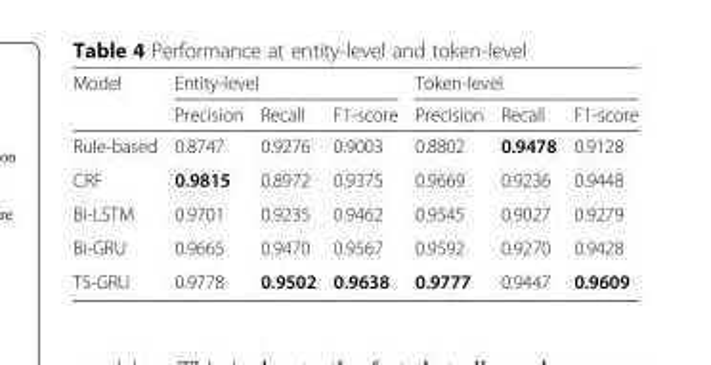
<table><thead><tr><td rowspan="2">Model</td><td colspan="3">Entity-level</td><td colspan="3">Token-level</td></tr><tr><td>Precision</td><td>Recall</td><td>F1-score</td><td>Precision</td><td>Recall</td><td>F1-score</td></tr></thead><tbody><tr><td>Rule-based</td><td>0.8747</td><td>0.9276</td><td>0.9003</td><td>0.8802</td><td>0.9478</td><td>0.9128</td></tr><tr><td>CRF</td><td>0.9815</td><td>0.8972</td><td>0.9375</td><td>0.9669</td><td>0.9236</td><td>0.9448</td></tr><tr><td>Bi-LSTM</td><td>0.9701</td><td>0.9235</td><td>0.9462</td><td>0.9545</td><td>0.9027</td><td>0.9279</td></tr><tr><td>Bi-GRU</td><td>0.9665</td><td>0.9470</td><td>0.9567</td><td>0.9592</td><td>0.9270</td><td>0.9428</td></tr><tr><td>TS-GRU</td><td>0.9778</td><td>0.9502</td><td>0.9638</td><td>0.9777</td><td>0.9447</td><td>0.9609</td></tr></tbody></table>